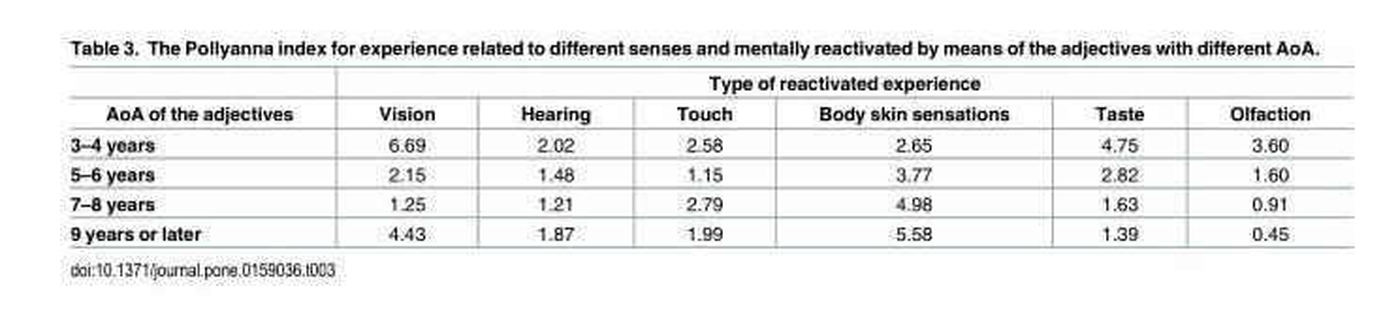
<table><thead><tr><td rowspan="2">AoA of the adjectives</td><td colspan="6">Type of reactivated experience</td></tr><tr><td>Vision</td><td>Hearing</td><td>Touch</td><td>Body skin sensations</td><td>Taste</td><td>Olfaction</td></tr></thead><tbody><tr><td>3–4 years</td><td>6.69</td><td>2.02</td><td>2.58</td><td>2.65</td><td>4.75</td><td>3.60</td></tr><tr><td>5–6 years</td><td>2.15</td><td>1.48</td><td>1.15</td><td>3.77</td><td>2.82</td><td>1.60</td></tr><tr><td>7–8 years</td><td>1.25</td><td>1.21</td><td>2.79</td><td>4.98</td><td>1.63</td><td>0.91</td></tr><tr><td>9 years or later</td><td>4.43</td><td>1.87</td><td>1.99</td><td>5.58</td><td>1.39</td><td>0.45</td></tr></tbody></table>